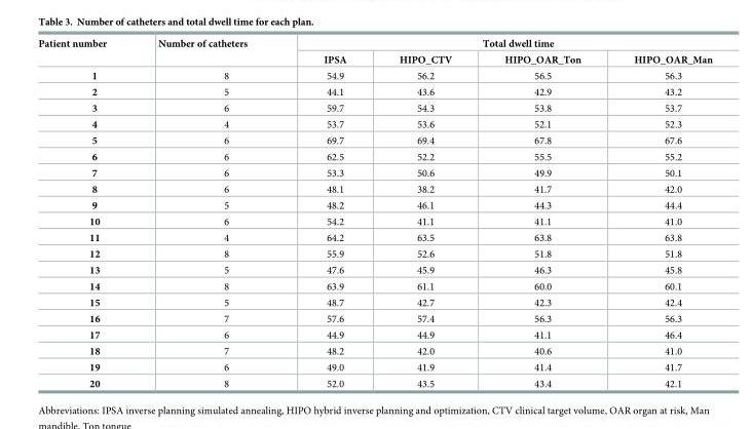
<table><thead><tr><td rowspan="2">Patient number</td><td rowspan="2">Number of catheters</td><td colspan="4">Total dwell time</td></tr><tr><td>IPSA</td><td>HIPO_CTV</td><td>HIPO_OAR_Ton</td><td>HIPO_OAR_Man</td></tr></thead><tbody><tr><td>1</td><td>8</td><td>54.9</td><td>56.2</td><td>56.5</td><td>56.3</td></tr><tr><td>2</td><td>5</td><td>44.1</td><td>43.6</td><td>42.9</td><td>43.2</td></tr><tr><td>3</td><td>6</td><td>59.7</td><td>54.3</td><td>53.8</td><td>53.7</td></tr><tr><td>4</td><td>4</td><td>53.7</td><td>53.6</td><td>52.1</td><td>52.3</td></tr><tr><td>5</td><td>6</td><td>69.7</td><td>69.4</td><td>67.8</td><td>67.6</td></tr><tr><td>6</td><td>6</td><td>62.5</td><td>52.2</td><td>55.5</td><td>55.2</td></tr><tr><td>7</td><td>6</td><td>53.3</td><td>50.6</td><td>49.9</td><td>50.1</td></tr><tr><td>8</td><td>6</td><td>48.1</td><td>38.2</td><td>41.7</td><td>42.0</td></tr><tr><td>9</td><td>5</td><td>48.2</td><td>46.1</td><td>44.3</td><td>44.4</td></tr><tr><td>10</td><td>6</td><td>54.2</td><td>41.1</td><td>41.1</td><td>41.0</td></tr><tr><td>11</td><td>4</td><td>64.2</td><td>63.5</td><td>63.8</td><td>63.8</td></tr><tr><td>12</td><td>8</td><td>55.9</td><td>52.6</td><td>51.8</td><td>51.8</td></tr><tr><td>13</td><td>5</td><td>47.6</td><td>45.9</td><td>46.3</td><td>45.8</td></tr><tr><td>14</td><td>8</td><td>63.9</td><td>61.1</td><td>60.0</td><td>60.1</td></tr><tr><td>15</td><td>5</td><td>48.7</td><td>42.7</td><td>42.3</td><td>42.4</td></tr><tr><td>16</td><td>7</td><td>57.6</td><td>57.4</td><td>56.3</td><td>56.3</td></tr><tr><td>17</td><td>6</td><td>44.9</td><td>44.9</td><td>41.1</td><td>46.4</td></tr><tr><td>18</td><td>7</td><td>48.2</td><td>42.0</td><td>40.6</td><td>41.0</td></tr><tr><td>19</td><td>6</td><td>49.0</td><td>41.9</td><td>41.4</td><td>41.7</td></tr><tr><td>20</td><td>8</td><td>52.0</td><td>43.5</td><td>43.4</td><td>42.1</td></tr></tbody></table>